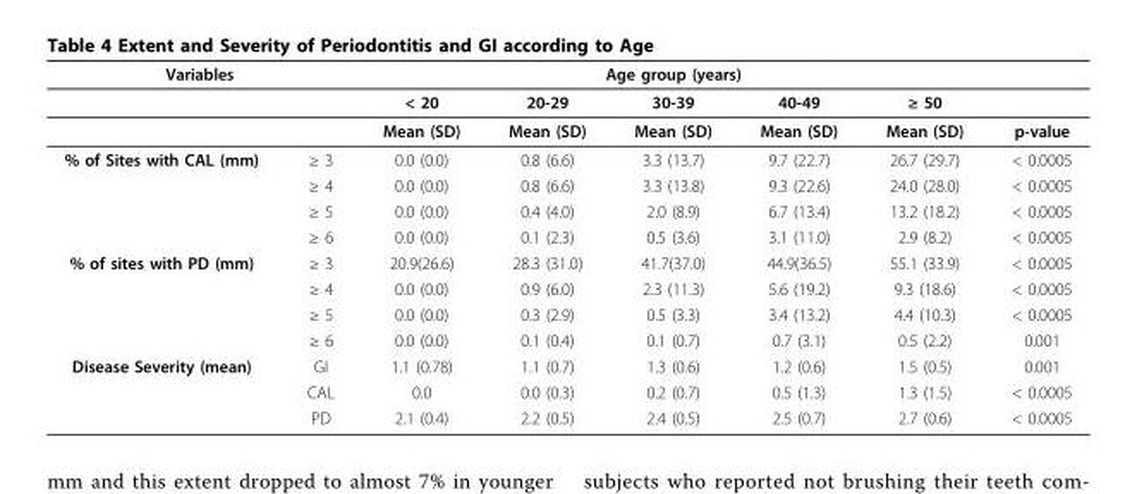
<table><thead><tr><td colspan="2">Variables</td><td colspan="5">Age group (years)</td><td rowspan="2"></td></tr><tr><td></td><td></td><td>&lt; 20</td><td>20-29</td><td>30-39</td><td>40-49</td><td>≥ 50</td></tr></thead><tbody><tr><td></td><td></td><td>Mean (SD)</td><td>Mean (SD)</td><td>Mean (SD)</td><td>Mean (SD)</td><td>Mean (SD)</td><td>p-value</td></tr><tr><td rowspan="4">% of Sites with CAL (mm)</td><td>≥ 3</td><td>0.0 (0.0)</td><td>0.8 (6.6)</td><td>3.3 (13.7)</td><td>9.7 (22.7)</td><td>26.7 (29.7)</td><td>&lt; 0.0005</td></tr><tr><td>≥ 4</td><td>0.0 (0.0)</td><td>0.8 (6.6)</td><td>3.3 (13.8)</td><td>9.3 (22.6)</td><td>24.0 (28.0)</td><td>&lt; 0.0005</td></tr><tr><td>≥ 5</td><td>0.0 (0.0)</td><td>0.4 (4.0)</td><td>2.0 (8.9)</td><td>6.7 (13.4)</td><td>13.2 (18.2)</td><td>&lt; 0.0005</td></tr><tr><td>≥ 6</td><td>0.0 (0.0)</td><td>0.1 (2.3)</td><td>0.5 (3.6)</td><td>3.1 (11.0)</td><td>2.9 (8.2)</td><td>&lt; 0.0005</td></tr><tr><td rowspan="4">% of sites with PD (mm)</td><td>≥ 3</td><td>20.9(26.6)</td><td>28.3 (31.0)</td><td>41.7(37.0)</td><td>44.9(36.5)</td><td>55.1 (33.9)</td><td>&lt; 0.0005</td></tr><tr><td>≥ 4</td><td>0.0 (0.0)</td><td>0.9 (6.0)</td><td>2.3 (11.3)</td><td>5.6 (19.2)</td><td>9.3 (18.6)</td><td>&lt; 0.0005</td></tr><tr><td>≥ 5</td><td>0.0 (0.0)</td><td>0.3 (2.9)</td><td>0.5 (3.3)</td><td>3.4 (13.2)</td><td>4.4 (10.3)</td><td>&lt; 0.0005</td></tr><tr><td>≥ 6</td><td>0.0 (0.0)</td><td>0.1 (0.4)</td><td>0.1 (0.7)</td><td>0.7 (3.1)</td><td>0.5 (2.2)</td><td>0.001</td></tr><tr><td rowspan="3">Disease Severity (mean)</td><td>GI</td><td>1.1 (0.78)</td><td>1.1 (0.7)</td><td>1.3 (0.6)</td><td>1.2 (0.6)</td><td>1.5 (0.5)</td><td>0.001</td></tr><tr><td>CAL</td><td>0.0</td><td>0.0 (0.3)</td><td>0.2 (0.7)</td><td>0.5 (1.3)</td><td>1.3 (1.5)</td><td>&lt; 0.0005</td></tr><tr><td>PD</td><td>2.1 (0.4)</td><td>2.2 (0.5)</td><td>2.4 (0.5)</td><td>2.5 (0.7)</td><td>2.7 (0.6)</td><td>&lt; 0.0005</td></tr></tbody></table>